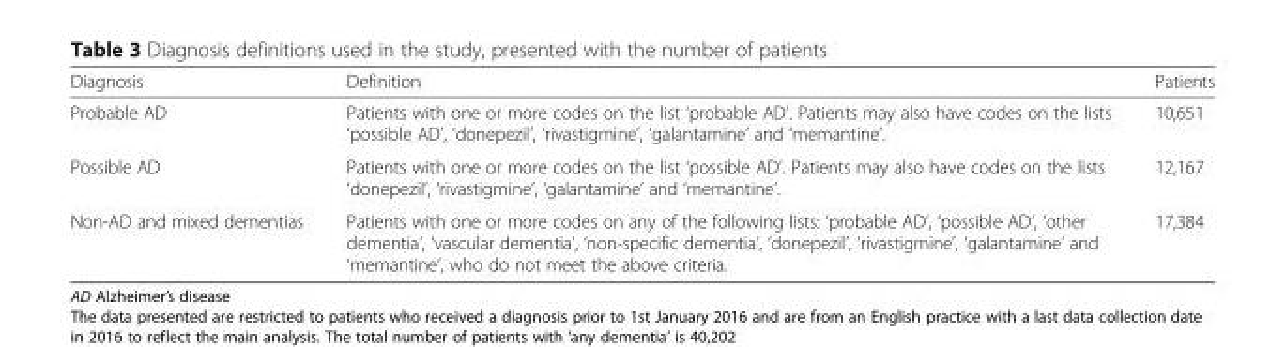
<table><thead><tr><td>Diagnosis</td><td>Definition</td><td>Patients</td></tr></thead><tbody><tr><td>Probable AD</td><td>Patients with one or more codes on the list ‘probable AD’. Patients may also have codes on the lists ‘possible AD’, ‘donepezil’, ‘rivastigmine’, ‘galantamine’ and ‘memantine’.</td><td>10,651</td></tr><tr><td>Possible AD</td><td>Patients with one or more codes on the list ‘possible AD’. Patients may also have codes on the lists ‘donepezil’, ‘rivastigmine’, ‘galantamine’ and ‘memantine’.</td><td>12,167</td></tr><tr><td>Non-AD and mixed dementias</td><td>Patients with one or more codes on any of the following lists: ‘probable AD’, ‘possible AD’, ‘other dementia’, ‘vascular dementia’, ‘non-specific dementia’, ‘donepezil’, ‘rivastigmine’, ‘galantamine’ and ‘memantine’, who do not meet the above criteria.</td><td>17,384</td></tr></tbody></table>